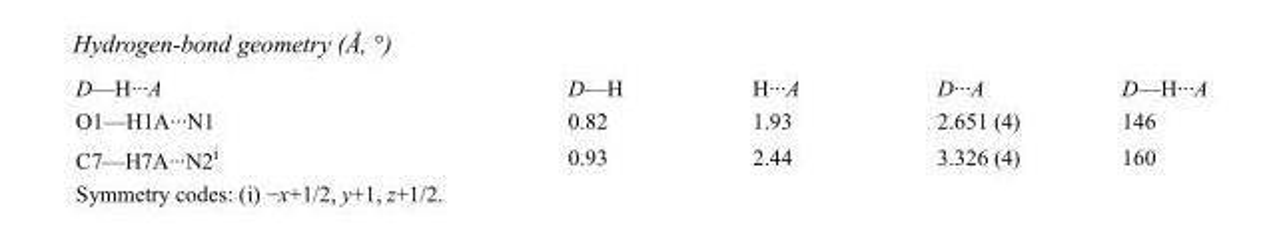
<table><tbody><tr><td>D—H···A</td><td>D—H</td><td>H···A</td><td>D···A</td><td>D—H···A</td></tr><tr><td>O1—H1A···N1</td><td>0.82</td><td>1.93</td><td>2.651 (4)</td><td>146</td></tr><tr><td>C7—H7A···N2<sup>i</sup></td><td>0.93</td><td>2.44</td><td>3.326 (4)</td><td>160</td></tr></tbody></table>